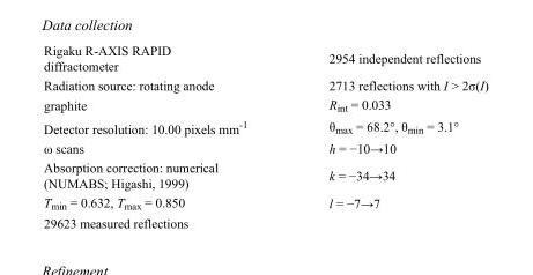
<table><tbody><tr><td>Rigaku R-AXIS RAPID diffractometer</td><td>2954 independent reflections</td></tr><tr><td>Radiation source: rotating anode</td><td>2713 reflections with I &gt; 2σ(I)</td></tr><tr><td>graphite</td><td>R<sub>int</sub> = 0.033</td></tr><tr><td>Detector resolution: 10.00 pixels mm<sup>-1</sup></td><td>θ<sub>max</sub> = 68.2°, θ<sub>min</sub> = 3.1°</td></tr><tr><td>ω scans</td><td>h = −10→10</td></tr><tr><td>Absorption correction: numerical (NUMABS; Higashi, 1999)</td><td>k = −34→34</td></tr><tr><td>T<sub>min</sub> = 0.632, T<sub>max</sub> = 0.850</td><td>l = −7→7</td></tr><tr><td>29623 measured reflections</td><td></td></tr></tbody></table>